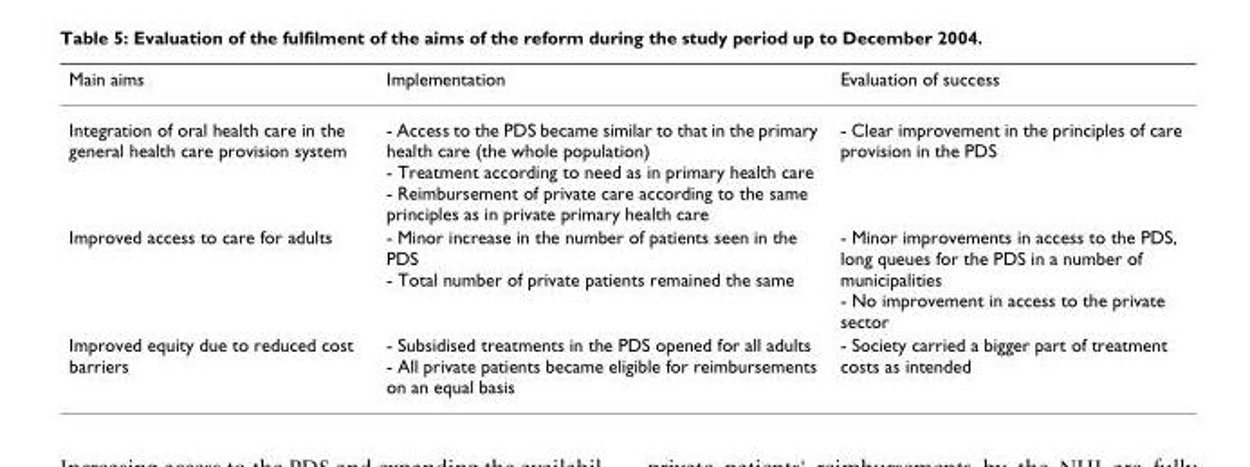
<table><thead><tr><td>Main aims</td><td>Implementation</td><td>Evaluation of success</td></tr></thead><tbody><tr><td>Integration of oral health care in the general health care provision system</td><td>- Access to the PDS became similar to that in the primary health care (the whole population) - Treatment according to need as in primary health care - Reimbursement of private care according to the same principles as in private primary health care</td><td>- Clear improvement in the principles of care provision in the PDS</td></tr><tr><td>Improved access to care for adults</td><td>- Minor increase in the number of patients seen in the PDS - Total number of private patients remained the same</td><td>- Minor improvements in access to the PDS, long queues for the PDS in a number of municipalities - No improvement in access to the private sector</td></tr><tr><td>Improved equity due to reduced cost barriers</td><td>- Subsidised treatments in the PDS opened for all adults - All private patients became eligible for reimbursements on an equal basis</td><td>- Society carried a bigger part of treatment costs as intended</td></tr></tbody></table>